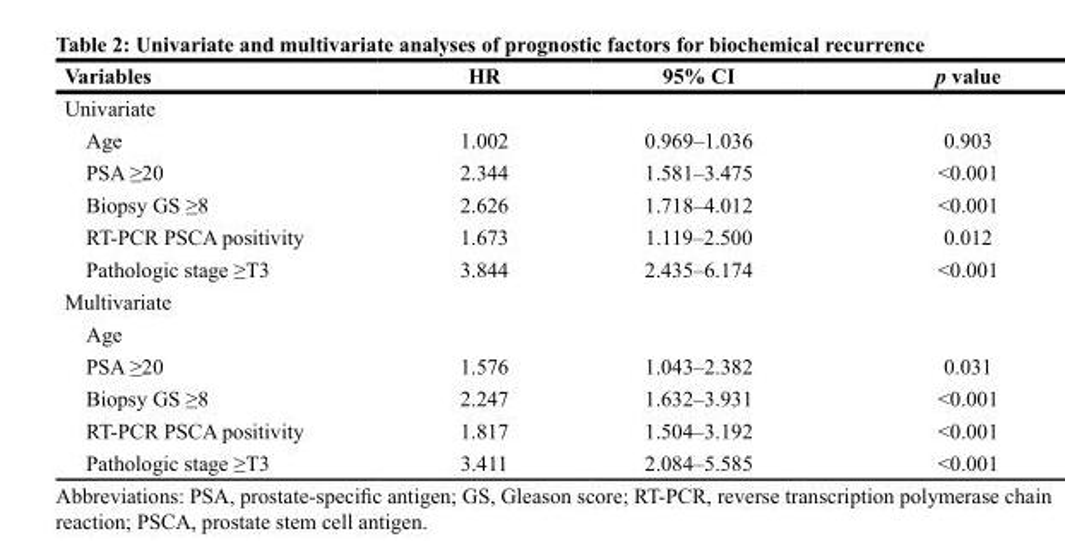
<table><thead><tr><td>Variables</td><td>HR</td><td>95% CI</td><td>p value</td></tr></thead><tbody><tr><td colspan="4">Univariate</td></tr><tr><td>Age</td><td>1.002</td><td>0.969–1.036</td><td>0.903</td></tr><tr><td>PSA ≥20</td><td>2.344</td><td>1.581–3.475</td><td>&lt;0.001</td></tr><tr><td>Biopsy GS ≥8</td><td>2.626</td><td>1.718–4.012</td><td>&lt;0.001</td></tr><tr><td>RT-PCR PSCA positivity</td><td>1.673</td><td>1.119–2.500</td><td>0.012</td></tr><tr><td>Pathologic stage ≥T3</td><td>3.844</td><td>2.435–6.174</td><td>&lt;0.001</td></tr><tr><td colspan="4">Multivariate</td></tr><tr><td colspan="4">Age</td></tr><tr><td>PSA ≥20</td><td>1.576</td><td>1.043–2.382</td><td>0.031</td></tr><tr><td>Biopsy GS ≥8</td><td>2.247</td><td>1.632–3.931</td><td>&lt;0.001</td></tr><tr><td>RT-PCR PSCA positivity</td><td>1.817</td><td>1.504–3.192</td><td>&lt;0.001</td></tr><tr><td>Pathologic stage ≥T3</td><td>3.411</td><td>2.084–5.585</td><td>&lt;0.001</td></tr></tbody></table>